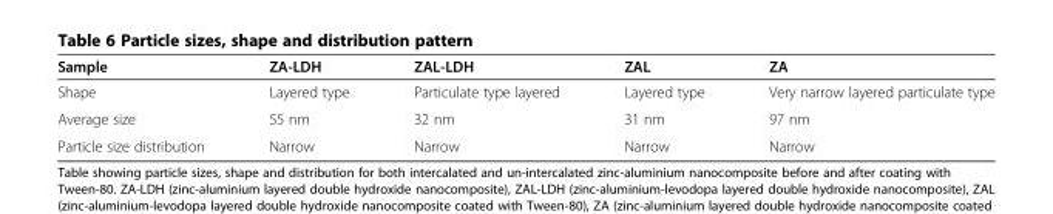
<table><thead><tr><td>Sample</td><td>ZA-LDH</td><td>ZAL-LDH</td><td>ZAL</td><td>ZA</td></tr></thead><tbody><tr><td>Shape</td><td>Layered type</td><td>Particulate type layered</td><td>Layered type</td><td>Very narrow layered particulate type</td></tr><tr><td>Average size</td><td>55 nm</td><td>32 nm</td><td>31 nm</td><td>97 nm</td></tr><tr><td>Particle size distribution</td><td>Narrow</td><td>Narrow</td><td>Narrow</td><td>Narrow</td></tr></tbody></table>